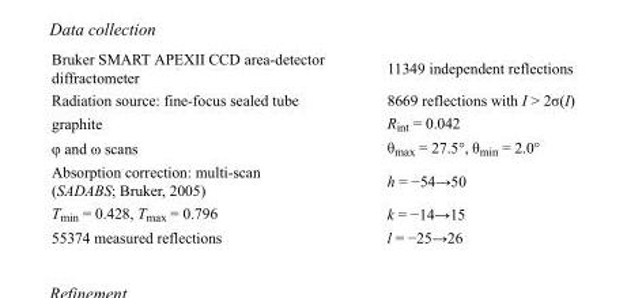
<table><tbody><tr><td>Bruker SMART APEXII CCD area-detector diffractometer</td><td>11349 independent reflections</td></tr><tr><td>Radiation source: fine-focus sealed tube</td><td>8669 reflections with I &gt; 2σ(I)</td></tr><tr><td>graphite</td><td>R<sub>int</sub> = 0.042</td></tr><tr><td>φ and ω scans</td><td>θ<sub>max</sub> = 27.5°, θ<sub>min</sub> = 2.0°</td></tr><tr><td>Absorption correction: multi-scan (SADABS; Bruker, 2005)</td><td>h = −54→50</td></tr><tr><td>T<sub>min</sub> = 0.428, T<sub>max</sub> = 0.796</td><td>k = −14→15</td></tr><tr><td>55374 measured reflections</td><td>l = −25→26</td></tr></tbody></table>